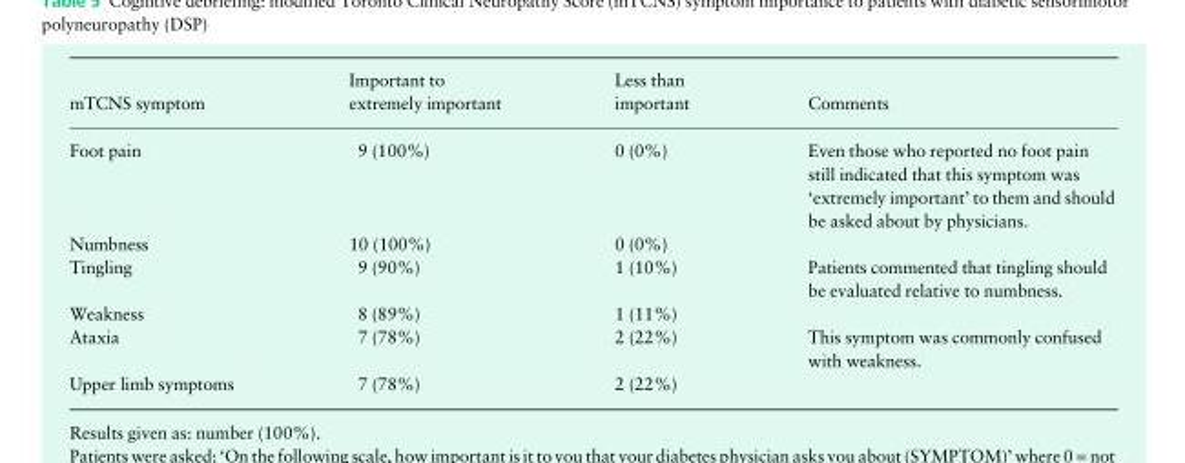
<table><thead><tr><td>mTCNS symptom</td><td>Important to extremely important</td><td>Less than important</td><td>Comments</td></tr></thead><tbody><tr><td>Foot pain</td><td>9 (100%)</td><td>0 (0%)</td><td>Even those who reported no foot pain still indicated that this symptom was ‘extremely important’ to them and should be asked about by physicians.</td></tr><tr><td>Numbness</td><td>10 (100%)</td><td>0 (0%)</td><td></td></tr><tr><td>Tingling</td><td>9 (90%)</td><td>1 (10%)</td><td>Patients commented that tingling should be evaluated relative to numbness.</td></tr><tr><td>Weakness</td><td>8 (89%)</td><td>1 (11%)</td><td></td></tr><tr><td>Ataxia</td><td>7 (78%)</td><td>2 (22%)</td><td>This symptom was commonly confused with weakness.</td></tr><tr><td>Upper limb symptoms</td><td>7 (78%)</td><td>2 (22%)</td><td></td></tr></tbody></table>